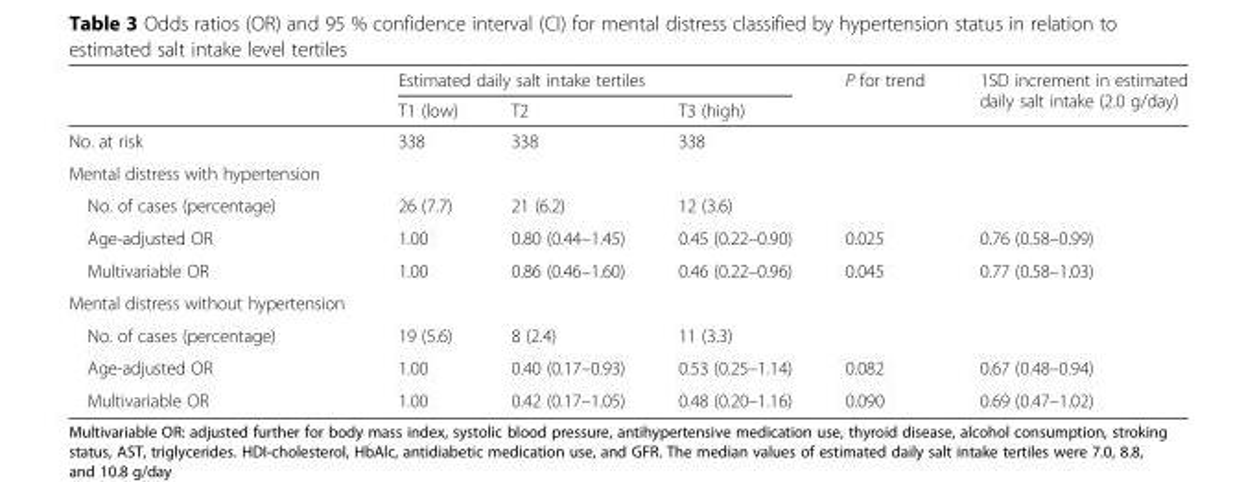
<table><thead><tr><td rowspan="2"></td><td colspan="3">Estimated daily salt intake tertiles</td><td rowspan="2">P for trend</td><td rowspan="2">1SD increment in estimated daily salt intake (2.0 g/day)</td></tr><tr><td>T1 (low)</td><td>T2</td><td>T3 (high)</td></tr></thead><tbody><tr><td>No. at risk</td><td>338</td><td>338</td><td>338</td><td></td><td></td></tr><tr><td colspan="6">Mental distress with hypertension</td></tr><tr><td>No. of cases (percentage)</td><td>26 (7.7)</td><td>21 (6.2)</td><td>12 (3.6)</td><td></td><td></td></tr><tr><td>Age-adjusted OR</td><td>1.00</td><td>0.80 (0.44–1.45)</td><td>0.45 (0.22–0.90)</td><td>0.025</td><td>0.76 (0.58–0.99)</td></tr><tr><td>Multivariable OR</td><td>1.00</td><td>0.86 (0.46–1.60)</td><td>0.46 (0.22–0.96)</td><td>0.045</td><td>0.77 (0.58–1.03)</td></tr><tr><td colspan="6">Mental distress without hypertension</td></tr><tr><td>No. of cases (percentage)</td><td>19 (5.6)</td><td>8 (2.4)</td><td>11 (3.3)</td><td></td><td></td></tr><tr><td>Age-adjusted OR</td><td>1.00</td><td>0.40 (0.17–0.93)</td><td>0.53 (0.25–1.14)</td><td>0.082</td><td>0.67 (0.48–0.94)</td></tr><tr><td>Multivariable OR</td><td>1.00</td><td>0.42 (0.17–1.05)</td><td>0.48 (0.20–1.16)</td><td>0.090</td><td>0.69 (0.47–1.02)</td></tr></tbody></table>